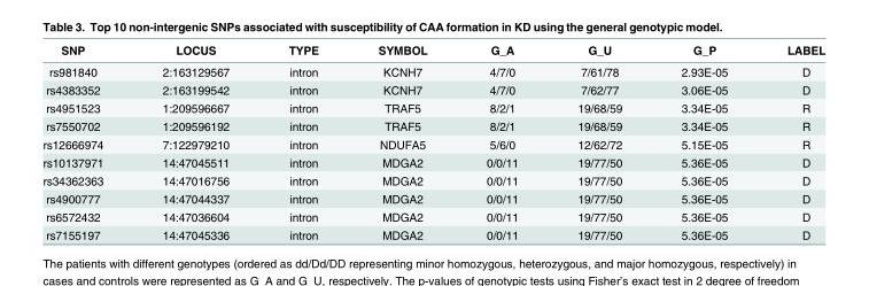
<table><thead><tr><td>SNP</td><td>LOCUS</td><td>TYPE</td><td>SYMBOL</td><td>G_A</td><td>G_U</td><td>G_P</td><td>LABEL</td></tr></thead><tbody><tr><td>rs981840</td><td>2:163129567</td><td>intron</td><td>KCNH7</td><td>4/7/0</td><td>7/61/78</td><td>2.93E-05</td><td>D</td></tr><tr><td>rs4383352</td><td>2:163199542</td><td>intron</td><td>KCNH7</td><td>4/7/0</td><td>7/62/77</td><td>3.06E-05</td><td>D</td></tr><tr><td>rs4951523</td><td>1:209596667</td><td>intron</td><td>TRAF5</td><td>8/2/1</td><td>19/68/59</td><td>3.34E-05</td><td>R</td></tr><tr><td>rs7550702</td><td>1:209596192</td><td>intron</td><td>TRAF5</td><td>8/2/1</td><td>19/68/59</td><td>3.34E-05</td><td>R</td></tr><tr><td>rs12666974</td><td>7:122979210</td><td>intron</td><td>NDUFA5</td><td>5/6/0</td><td>12/62/72</td><td>5.15E-05</td><td>R</td></tr><tr><td>rs10137971</td><td>14:47045511</td><td>intron</td><td>MDGA2</td><td>0/0/11</td><td>19/77/50</td><td>5.36E-05</td><td>D</td></tr><tr><td>rs34362363</td><td>14:47016756</td><td>intron</td><td>MDGA2</td><td>0/0/11</td><td>19/77/50</td><td>5.36E-05</td><td>D</td></tr><tr><td>rs4900777</td><td>14:47044337</td><td>intron</td><td>MDGA2</td><td>0/0/11</td><td>19/77/50</td><td>5.36E-05</td><td>D</td></tr><tr><td>rs6572432</td><td>14:47036604</td><td>intron</td><td>MDGA2</td><td>0/0/11</td><td>19/77/50</td><td>5.36E-05</td><td>D</td></tr><tr><td>rs7155197</td><td>14:47045336</td><td>intron</td><td>MDGA2</td><td>0/0/11</td><td>19/77/50</td><td>5.36E-05</td><td>D</td></tr></tbody></table>